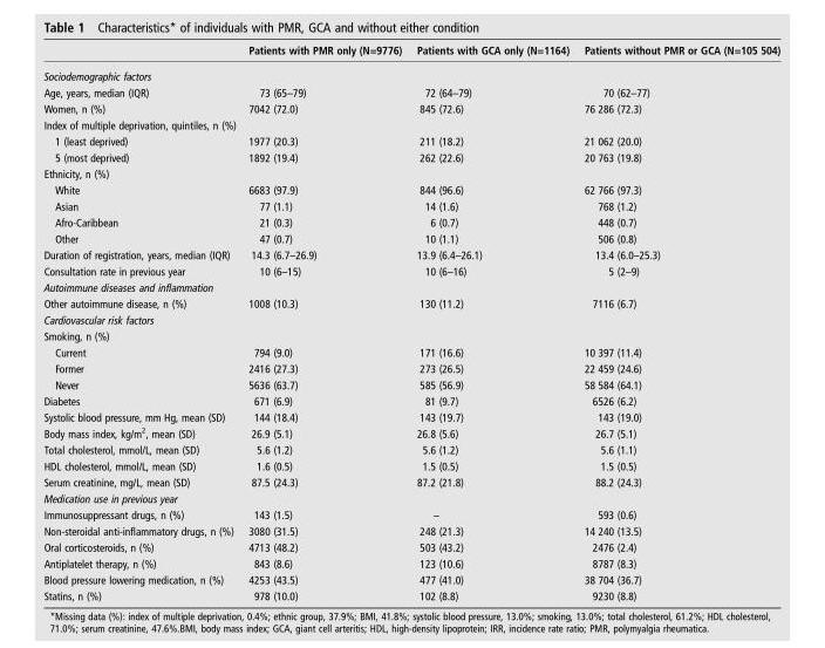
<table><thead><tr><td></td><td>Patients with PMR only (N=9776)</td><td>Patients with GCA only (N=1164)</td><td>Patients without PMR or GCA (N=105 504)</td></tr></thead><tbody><tr><td colspan="4">Sociodemographic factors</td></tr><tr><td>Age, years, median (IQR)</td><td>73 (65–79)</td><td>72 (64–79)</td><td>70 (62–77)</td></tr><tr><td>Women, n (%)</td><td>7042 (72.0)</td><td>845 (72.6)</td><td>76 286 (72.3)</td></tr><tr><td colspan="4">Index of multiple deprivation, quintiles, n (%)</td></tr><tr><td>1 (least deprived)</td><td>1977 (20.3)</td><td>211 (18.2)</td><td>21 062 (20.0)</td></tr><tr><td>5 (most deprived)</td><td>1892 (19.4)</td><td>262 (22.6)</td><td>20 763 (19.8)</td></tr><tr><td colspan="4">Ethnicity, n (%)</td></tr><tr><td>White</td><td>6683 (97.9)</td><td>844 (96.6)</td><td>62 766 (97.3)</td></tr><tr><td>Asian</td><td>77 (1.1)</td><td>14 (1.6)</td><td>768 (1.2)</td></tr><tr><td>Afro-Caribbean</td><td>21 (0.3)</td><td>6 (0.7)</td><td>448 (0.7)</td></tr><tr><td>Other</td><td>47 (0.7)</td><td>10 (1.1)</td><td>506 (0.8)</td></tr><tr><td>Duration of registration, years, median (IQR)</td><td>14.3 (6.7–26.9)</td><td>13.9 (6.4–26.1)</td><td>13.4 (6.0–25.3)</td></tr><tr><td>Consultation rate in previous year</td><td>10 (6–15)</td><td>10 (6–16)</td><td>5 (2–9)</td></tr><tr><td colspan="4">Autoimmune diseases and inflammation</td></tr><tr><td>Other autoimmune disease, n (%)</td><td>1008 (10.3)</td><td>130 (11.2)</td><td>7116 (6.7)</td></tr><tr><td colspan="4">Cardiovascular risk factors</td></tr><tr><td colspan="4">Smoking, n (%)</td></tr><tr><td>Current</td><td>794 (9.0)</td><td>171 (16.6)</td><td>10 397 (11.4)</td></tr><tr><td>Former</td><td>2416 (27.3)</td><td>273 (26.5)</td><td>22 459 (24.6)</td></tr><tr><td>Never</td><td>5636 (63.7)</td><td>585 (56.9)</td><td>58 584 (64.1)</td></tr><tr><td>Diabetes</td><td>671 (6.9)</td><td>81 (9.7)</td><td>6526 (6.2)</td></tr><tr><td>Systolic blood pressure, mm Hg, mean (SD)</td><td>144 (18.4)</td><td>143 (19.7)</td><td>143 (19.0)</td></tr><tr><td>Body mass index, kg/m<sup>2</sup>, mean (SD)</td><td>26.9 (5.1)</td><td>26.8 (5.6)</td><td>26.7 (5.1)</td></tr><tr><td>Total cholesterol, mmol/L, mean (SD)</td><td>5.6 (1.2)</td><td>5.6 (1.2)</td><td>5.6 (1.1)</td></tr><tr><td>HDL cholesterol, mmol/L, mean (SD)</td><td>1.6 (0.5)</td><td>1.5 (0.5)</td><td>1.5 (0.5)</td></tr><tr><td>Serum creatinine, mg/L, mean (SD)</td><td>87.5 (24.3)</td><td>87.2 (21.8)</td><td>88.2 (24.3)</td></tr><tr><td colspan="4">Medication use in previous year</td></tr><tr><td>Immunosuppressant drugs, n (%)</td><td>143 (1.5)</td><td>–</td><td>593 (0.6)</td></tr><tr><td>Non-steroidal anti-inflammatory drugs, n (%)</td><td>3080 (31.5)</td><td>248 (21.3)</td><td>14 240 (13.5)</td></tr><tr><td>Oral corticosteroids, n (%)</td><td>4713 (48.2)</td><td>503 (43.2)</td><td>2476 (2.4)</td></tr><tr><td>Antiplatelet therapy, n (%)</td><td>843 (8.6)</td><td>123 (10.6)</td><td>8787 (8.3)</td></tr><tr><td>Blood pressure lowering medication, n (%)</td><td>4253 (43.5)</td><td>477 (41.0)</td><td>38 704 (36.7)</td></tr><tr><td>Statins, n (%)</td><td>978 (10.0)</td><td>102 (8.8)</td><td>9230 (8.8)</td></tr></tbody></table>